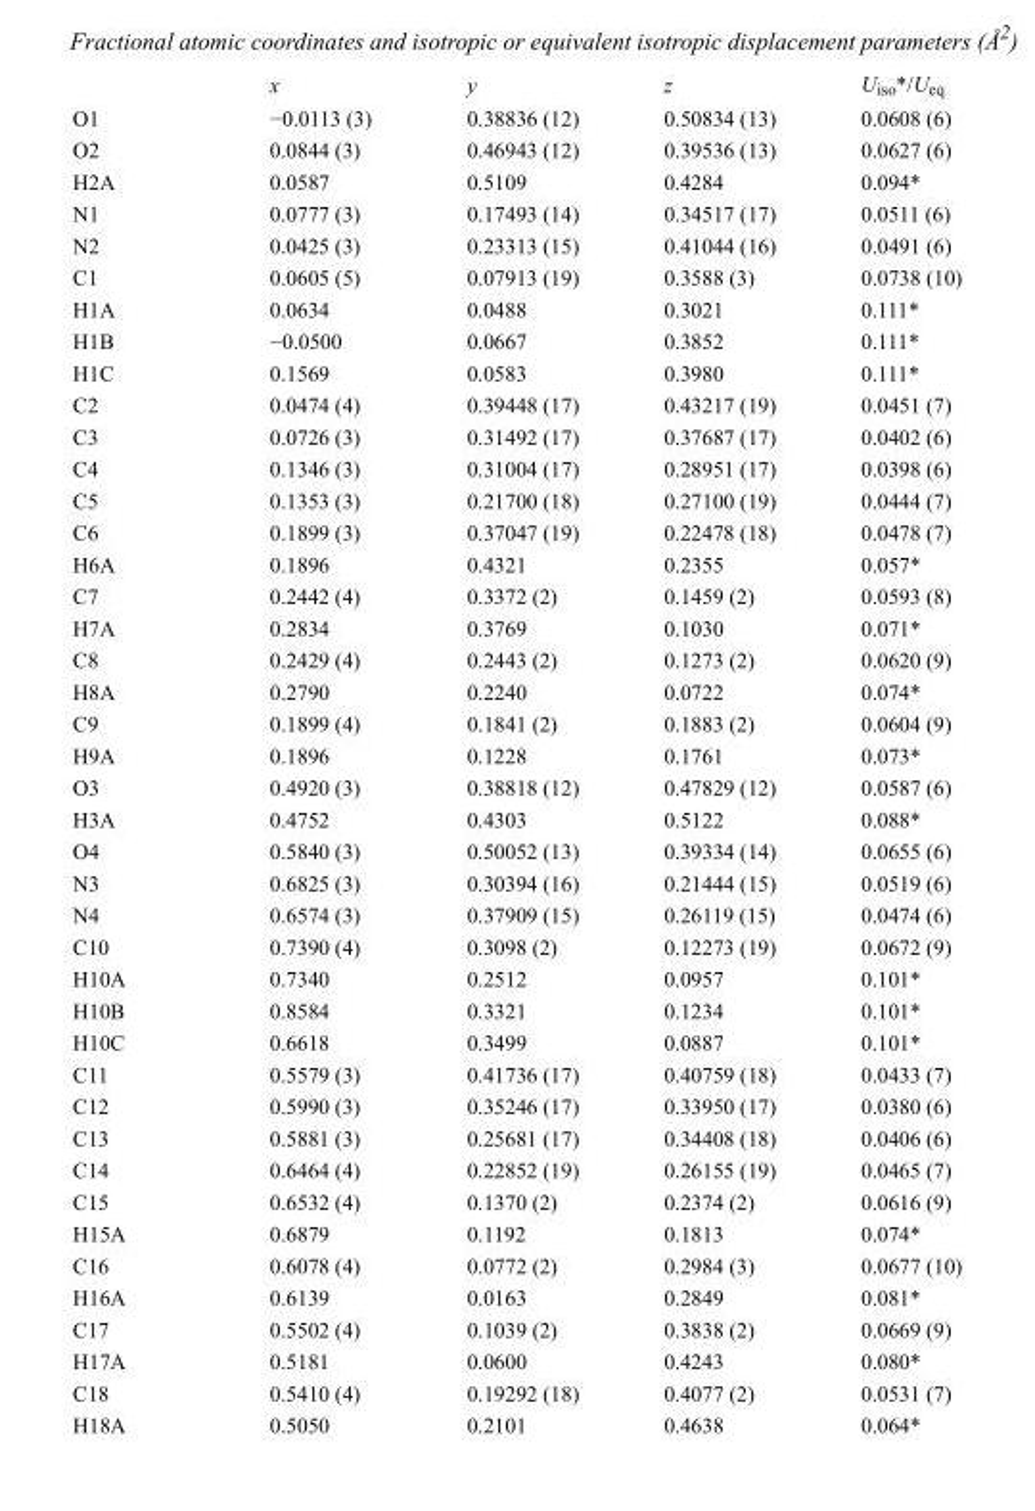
<table><thead><tr><td></td><td>x</td><td>y</td><td>z</td><td>U<sub>iso</sub>*/U<sub>eq</sub></td></tr></thead><tbody><tr><td>O1</td><td>−0.0113 (3)</td><td>0.38836 (12)</td><td>0.50834 (13)</td><td>0.0608 (6)</td></tr><tr><td>O2</td><td>0.0844 (3)</td><td>0.46943 (12)</td><td>0.39536 (13)</td><td>0.0627 (6)</td></tr><tr><td>H2A</td><td>0.0587</td><td>0.5109</td><td>0.4284</td><td>0.094*</td></tr><tr><td>N1</td><td>0.0777 (3)</td><td>0.17493 (14)</td><td>0.34517 (17)</td><td>0.0511 (6)</td></tr><tr><td>N2</td><td>0.0425 (3)</td><td>0.23313 (15)</td><td>0.41044 (16)</td><td>0.0491 (6)</td></tr><tr><td>C1</td><td>0.0605 (5)</td><td>0.07913 (19)</td><td>0.3588 (3)</td><td>0.0738 (10)</td></tr><tr><td>H1A</td><td>0.0634</td><td>0.0488</td><td>0.3021</td><td>0.111*</td></tr><tr><td>H1B</td><td>−0.0500</td><td>0.0667</td><td>0.3852</td><td>0.111*</td></tr><tr><td>H1C</td><td>0.1569</td><td>0.0583</td><td>0.3980</td><td>0.111*</td></tr><tr><td>C2</td><td>0.0474 (4)</td><td>0.39448 (17)</td><td>0.43217 (19)</td><td>0.0451 (7)</td></tr><tr><td>C3</td><td>0.0726 (3)</td><td>0.31492 (17)</td><td>0.37687 (17)</td><td>0.0402 (6)</td></tr><tr><td>C4</td><td>0.1346 (3)</td><td>0.31004 (17)</td><td>0.28951 (17)</td><td>0.0398 (6)</td></tr><tr><td>C5</td><td>0.1353 (3)</td><td>0.21700 (18)</td><td>0.27100 (19)</td><td>0.0444 (7)</td></tr><tr><td>C6</td><td>0.1899 (3)</td><td>0.37047 (19)</td><td>0.22478 (18)</td><td>0.0478 (7)</td></tr><tr><td>H6A</td><td>0.1896</td><td>0.4321</td><td>0.2355</td><td>0.057*</td></tr><tr><td>C7</td><td>0.2442 (4)</td><td>0.3372 (2)</td><td>0.1459 (2)</td><td>0.0593 (8)</td></tr><tr><td>H7A</td><td>0.2834</td><td>0.3769</td><td>0.1030</td><td>0.071*</td></tr><tr><td>C8</td><td>0.2429 (4)</td><td>0.2443 (2)</td><td>0.1273 (2)</td><td>0.0620 (9)</td></tr><tr><td>H8A</td><td>0.2790</td><td>0.2240</td><td>0.0722</td><td>0.074*</td></tr><tr><td>C9</td><td>0.1899 (4)</td><td>0.1841 (2)</td><td>0.1883 (2)</td><td>0.0604 (9)</td></tr><tr><td>H9A</td><td>0.1896</td><td>0.1228</td><td>0.1761</td><td>0.073*</td></tr><tr><td>O3</td><td>0.4920 (3)</td><td>0.38818 (12)</td><td>0.47829 (12)</td><td>0.0587 (6)</td></tr><tr><td>H3A</td><td>0.4752</td><td>0.4303</td><td>0.5122</td><td>0.088*</td></tr><tr><td>O4</td><td>0.5840 (3)</td><td>0.50052 (13)</td><td>0.39334 (14)</td><td>0.0655 (6)</td></tr><tr><td>N3</td><td>0.6825 (3)</td><td>0.30394 (16)</td><td>0.21444 (15)</td><td>0.0519 (6)</td></tr><tr><td>N4</td><td>0.6574 (3)</td><td>0.37909 (15)</td><td>0.26119 (15)</td><td>0.0474 (6)</td></tr><tr><td>C10</td><td>0.7390 (4)</td><td>0.3098 (2)</td><td>0.12273 (19)</td><td>0.0672 (9)</td></tr><tr><td>H10A</td><td>0.7340</td><td>0.2512</td><td>0.0957</td><td>0.101*</td></tr><tr><td>H10B</td><td>0.8584</td><td>0.3321</td><td>0.1234</td><td>0.101*</td></tr><tr><td>H10C</td><td>0.6618</td><td>0.3499</td><td>0.0887</td><td>0.101*</td></tr><tr><td>C11</td><td>0.5579 (3)</td><td>0.41736 (17)</td><td>0.40759 (18)</td><td>0.0433 (7)</td></tr><tr><td>C12</td><td>0.5990 (3)</td><td>0.35246 (17)</td><td>0.33950 (17)</td><td>0.0380 (6)</td></tr><tr><td>C13</td><td>0.5881 (3)</td><td>0.25681 (17)</td><td>0.34408 (18)</td><td>0.0406 (6)</td></tr><tr><td>C14</td><td>0.6464 (4)</td><td>0.22852 (19)</td><td>0.26155 (19)</td><td>0.0465 (7)</td></tr><tr><td>C15</td><td>0.6532 (4)</td><td>0.1370 (2)</td><td>0.2374 (2)</td><td>0.0616 (9)</td></tr><tr><td>H15A</td><td>0.6879</td><td>0.1192</td><td>0.1813</td><td>0.074*</td></tr><tr><td>C16</td><td>0.6078 (4)</td><td>0.0772 (2)</td><td>0.2984 (3)</td><td>0.0677 (10)</td></tr><tr><td>H16A</td><td>0.6139</td><td>0.0163</td><td>0.2849</td><td>0.081*</td></tr><tr><td>C17</td><td>0.5502 (4)</td><td>0.1039 (2)</td><td>0.3838 (2)</td><td>0.0669 (9)</td></tr><tr><td>H17A</td><td>0.5181</td><td>0.0600</td><td>0.4243</td><td>0.080*</td></tr><tr><td>C18</td><td>0.5410 (4)</td><td>0.19292 (18)</td><td>0.4077 (2)</td><td>0.0531 (7)</td></tr><tr><td>H18A</td><td>0.5050</td><td>0.2101</td><td>0.4638</td><td>0.064*</td></tr></tbody></table>